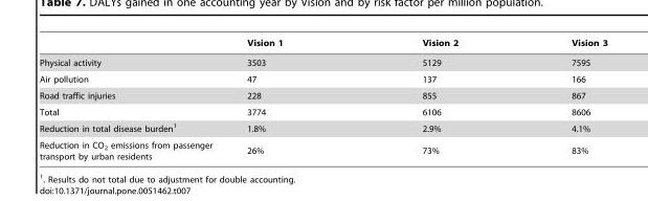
<table><thead><tr><td></td><td>Vision 1</td><td>Vision 2</td><td>Vision 3</td></tr></thead><tbody><tr><td>Physical activity</td><td>3503</td><td>5129</td><td>7595</td></tr><tr><td>Air pollution</td><td>47</td><td>137</td><td>166</td></tr><tr><td>Road traffic injuries</td><td>228</td><td>855</td><td>867</td></tr><tr><td>Total</td><td>3774</td><td>6106</td><td>8606</td></tr><tr><td>Reduction in total disease burden<sup>1</sup></td><td>1.8%</td><td>2.9%</td><td>4.1%</td></tr><tr><td>Reduction in CO<sub>2</sub> emissions from passenger transport by urban residents</td><td>26%</td><td>73%</td><td>83%</td></tr></tbody></table>